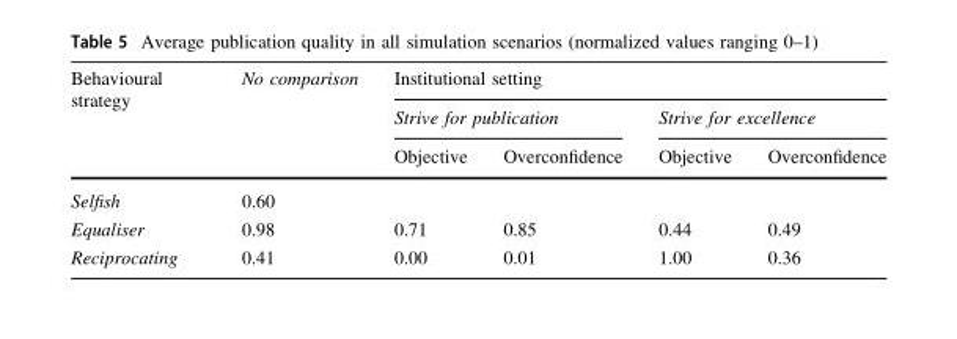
<table><thead><tr><td rowspan="3">Behavioural strategy</td><td rowspan="3">No comparison</td><td colspan="4">Institutional setting</td></tr><tr><td colspan="2">Strive for publication</td><td colspan="2">Strive for excellence</td></tr><tr><td>Objective</td><td>Overconfidence</td><td>Objective</td><td>Overconfidence</td></tr></thead><tbody><tr><td>Selfish</td><td>0.60</td><td></td><td></td><td></td><td></td></tr><tr><td>Equaliser</td><td>0.98</td><td>0.71</td><td>0.85</td><td>0.44</td><td>0.49</td></tr><tr><td>Reciprocating</td><td>0.41</td><td>0.00</td><td>0.01</td><td>1.00</td><td>0.36</td></tr></tbody></table>